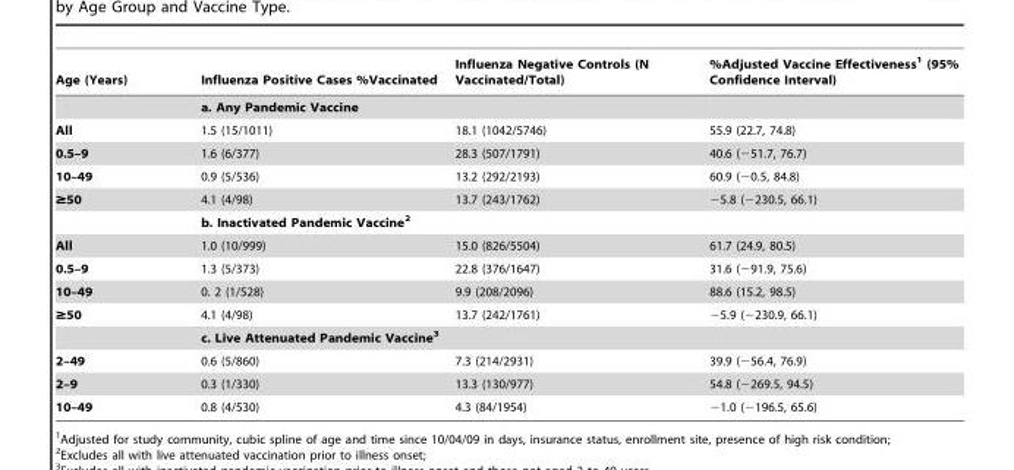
<table><thead><tr><td>Age (Years)</td><td>Influenza Positive Cases %Vaccinated</td><td>Influenza Negative Controls (N Vaccinated/Total)</td><td>%Adjusted Vaccine Effectiveness<sup>1</sup> (95% Confidence Interval)</td></tr></thead><tbody><tr><td></td><td colspan="2">a. Any Pandemic Vaccine</td><td></td></tr><tr><td>All</td><td>1.5 (15/1011)</td><td>18.1 (1042/5746)</td><td>55.9 (22.7, 74.8)</td></tr><tr><td>0.5–9</td><td>1.6 (6/377)</td><td>28.3 (507/1791)</td><td>40.6 (−51.7, 76.7)</td></tr><tr><td>10–49</td><td>0.9 (5/536)</td><td>13.2 (292/2193)</td><td>60.9 (−0.5, 84.8)</td></tr><tr><td rowspan="2">≥50</td><td>4.1 (4/98)</td><td>13.7 (243/1762)</td><td>−5.8 (−230.5, 66.1)</td></tr><tr><td colspan="3">b. Inactivated Pandemic Vaccine2</td></tr><tr><td>All</td><td>1.0 (10/999)</td><td>15.0 (826/5504)</td><td>61.7 (24.9, 80.5)</td></tr><tr><td>0.5–9</td><td>1.3 (5/373)</td><td>22.8 (376/1647)</td><td>31.6 (−91.9, 75.6)</td></tr><tr><td>10–49</td><td>0. 2 (1/528)</td><td>9.9 (208/2096)</td><td>88.6 (15.2, 98.5)</td></tr><tr><td rowspan="2">≥50</td><td>4.1 (4/98)</td><td>13.7 (242/1761)</td><td>−5.9 (−230.9, 66.1)</td></tr><tr><td colspan="3">c. Live Attenuated Pandemic Vaccine3</td></tr><tr><td>2–49</td><td>0.6 (5/860)</td><td>7.3 (214/2931)</td><td>39.9 (−56.4, 76.9)</td></tr><tr><td>2–9</td><td>0.3 (1/330)</td><td>13.3 (130/977)</td><td>54.8 (−269.5, 94.5)</td></tr><tr><td>10–49</td><td>0.8 (4/530)</td><td>4.3 (84/1954)</td><td>−1.0 (−196.5, 65.6)</td></tr></tbody></table>